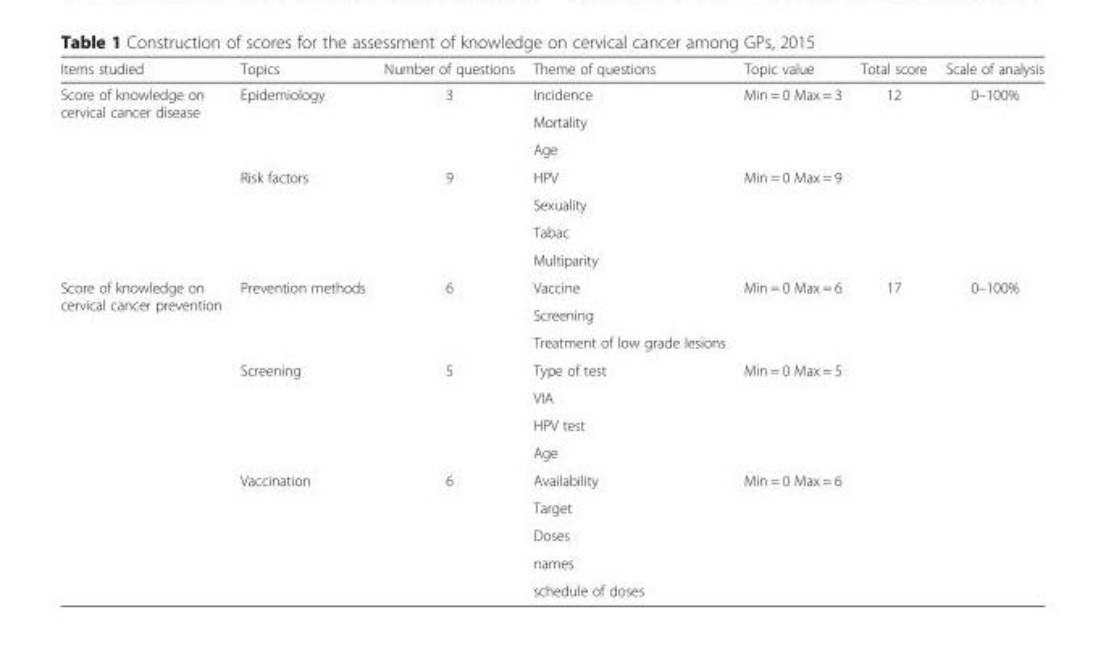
<table><thead><tr><td>Items studied</td><td>Topics</td><td>Number of questions</td><td>Theme of questions</td><td>Topic value</td><td>Total score</td><td>Scale of analysis</td></tr></thead><tbody><tr><td rowspan="7">Score of knowledge on cervical cancer disease</td><td rowspan="3">Epidemiology</td><td rowspan="3">3</td><td>Incidence</td><td rowspan="3">Min = 0 Max = 3</td><td rowspan="7">12</td><td rowspan="7">0–100%</td></tr><tr><td>Mortality</td></tr><tr><td>Age</td></tr><tr><td rowspan="4">Risk factors</td><td rowspan="4">9</td><td>HPV</td><td rowspan="4">Min = 0 Max = 9</td></tr><tr><td>Sexuality</td></tr><tr><td>Tabac</td></tr><tr><td>Multiparity</td></tr><tr><td rowspan="12">Score of knowledge on cervical cancer prevention</td><td rowspan="3">Prevention methods</td><td rowspan="3">6</td><td>Vaccine</td><td rowspan="3">Min = 0 Max = 6</td><td rowspan="12">17</td><td rowspan="12">0–100%</td></tr><tr><td>Screening</td></tr><tr><td>Treatment of low grade lesions</td></tr><tr><td rowspan="4">Screening</td><td rowspan="4">5</td><td>Type of test</td><td rowspan="4">Min = 0 Max = 5</td></tr><tr><td>VIA</td></tr><tr><td>HPV test</td></tr><tr><td>Age</td></tr><tr><td rowspan="5">Vaccination</td><td rowspan="5">6</td><td>Availability</td><td rowspan="5">Min = 0 Max = 6</td></tr><tr><td>Target</td></tr><tr><td>Doses</td></tr><tr><td>names</td></tr><tr><td>schedule of doses</td></tr></tbody></table>